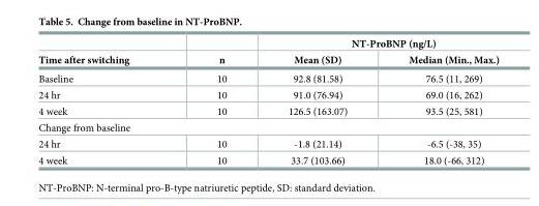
<table><thead><tr><td rowspan="2">Time after switching</td><td rowspan="2">n</td><td colspan="2">NT-ProBNP (ng/L)</td></tr><tr><td>Mean (SD)</td><td>Median (Min., Max.)</td></tr></thead><tbody><tr><td>Baseline</td><td>10</td><td>92.8 (81.58)</td><td>76.5 (11, 269)</td></tr><tr><td>24 hr</td><td>10</td><td>91.0 (76.94)</td><td>69.0 (16, 262)</td></tr><tr><td>4 week</td><td>10</td><td>126.5 (163.07)</td><td>93.5 (25, 581)</td></tr><tr><td colspan="4">Change from baseline</td></tr><tr><td>24 hr</td><td>10</td><td>-1.8 (21.14)</td><td>-6.5 (-38, 35)</td></tr><tr><td>4 week</td><td>10</td><td>33.7 (103.66)</td><td>18.0 (-66, 312)</td></tr></tbody></table>